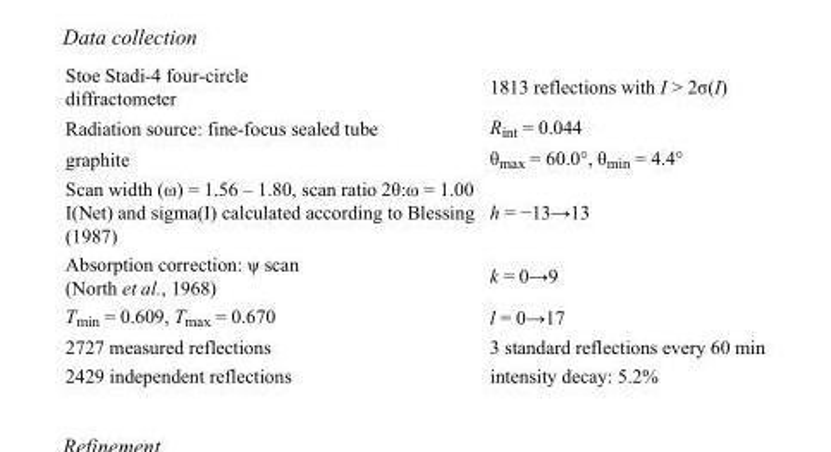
<table><tbody><tr><td>Stoe Stadi-4 four-circle diffractometer</td><td>1813 reflections with I &gt; 2σ(I)</td></tr><tr><td>Radiation source: fine-focus sealed tube</td><td>R<sub>int</sub> = 0.044</td></tr><tr><td>graphite</td><td>θ<sub>max</sub> = 60.0°, θ<sub>min</sub> = 4.4°</td></tr><tr><td>Scan width (ω) = 1.56 – 1.80, scan ratio 2θ:ω = 1.00 I(Net) and sigma(I) calculated according to Blessing (1987)</td><td>h = −13→13</td></tr><tr><td>Absorption correction: ψ scan (North et al., 1968)</td><td>k = 0→9</td></tr><tr><td>T<sub>min</sub> = 0.609, T<sub>max</sub> = 0.670</td><td>l = 0→17</td></tr><tr><td>2727 measured reflections</td><td>3 standard reflections every 60 min</td></tr><tr><td>2429 independent reflections</td><td>intensity decay: 5.2%</td></tr></tbody></table>